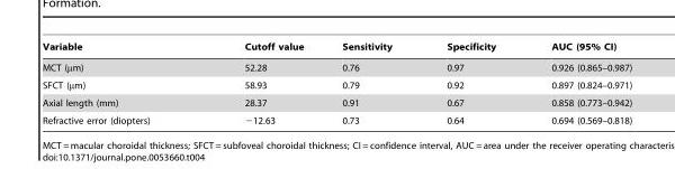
<table><thead><tr><td>Variable</td><td>Cutoff value</td><td>Sensitivity</td><td>Specificity</td><td>AUC (95% CI)</td></tr></thead><tbody><tr><td>MCT (µm)</td><td>52.28</td><td>0.76</td><td>0.97</td><td>0.926 (0.865–0.987)</td></tr><tr><td>SFCT (µm)</td><td>58.93</td><td>0.79</td><td>0.92</td><td>0.897 (0.824–0.971)</td></tr><tr><td>Axial length (mm)</td><td>28.37</td><td>0.91</td><td>0.67</td><td>0.858 (0.773–0.942)</td></tr><tr><td>Refractive error (diopters)</td><td>−12.63</td><td>0.73</td><td>0.64</td><td>0.694 (0.569–0.818)</td></tr></tbody></table>